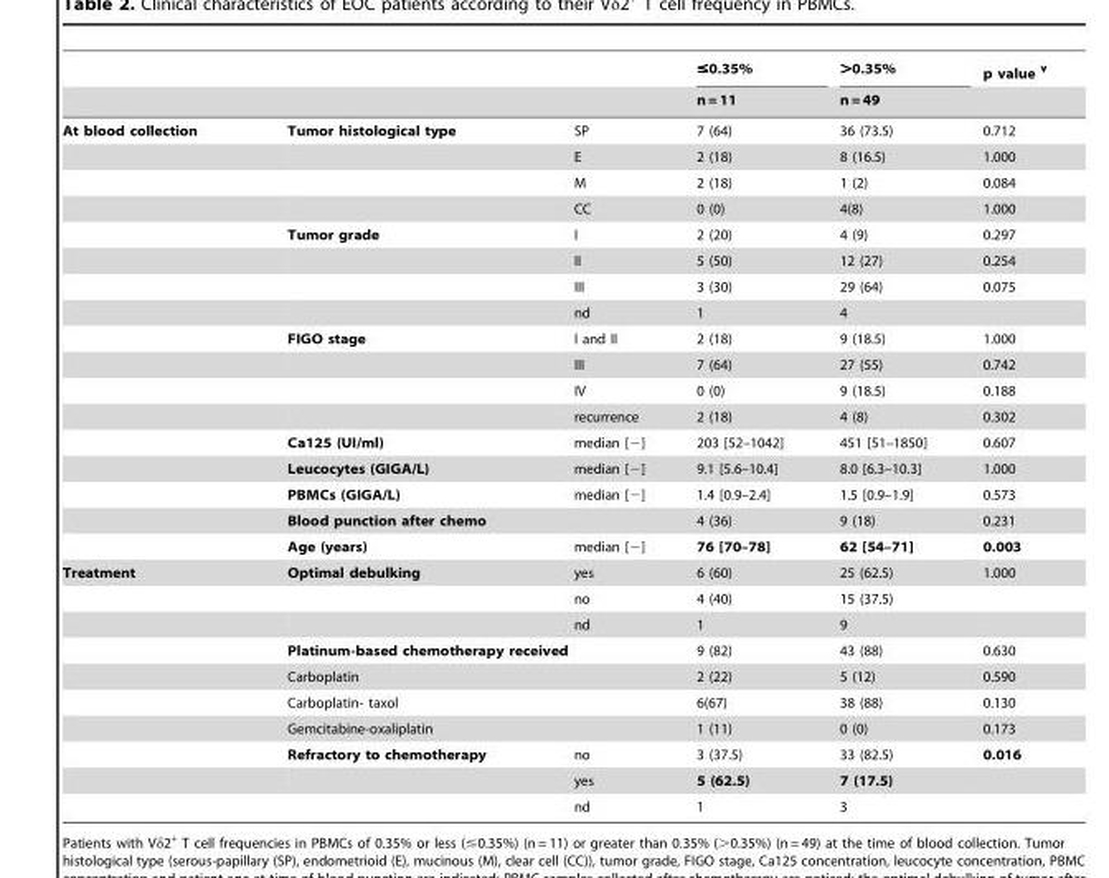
<table><thead><tr><td rowspan="2"></td><td rowspan="2"></td><td rowspan="2"></td><td rowspan="2">≤0.35% n = 11</td><td rowspan="2">&gt;0.35% n = 49</td><td rowspan="2">p value <sup>¥</sup></td></tr><tr></tr></thead><tbody><tr><td rowspan="17">At blood collection</td><td>Tumor histological type</td><td>SP</td><td>7 (64)</td><td>36 (73.5)</td><td>0.712</td></tr><tr><td></td><td>E</td><td>2 (18)</td><td>8 (16.5)</td><td>1.000</td></tr><tr><td></td><td>M</td><td>2 (18)</td><td>1 (2)</td><td>0.084</td></tr><tr><td></td><td>CC</td><td>0 (0)</td><td>4(8)</td><td>1.000</td></tr><tr><td>Tumor grade</td><td>I</td><td>2 (20)</td><td>4 (9)</td><td>0.297</td></tr><tr><td></td><td>II</td><td>5 (50)</td><td>12 (27)</td><td>0.254</td></tr><tr><td></td><td>III</td><td>3 (30)</td><td>29 (64)</td><td>0.075</td></tr><tr><td></td><td>nd</td><td>1</td><td>4</td><td></td></tr><tr><td>FIGO stage</td><td>I and II</td><td>2 (18)</td><td>9 (18.5)</td><td>1.000</td></tr><tr><td></td><td>III</td><td>7 (64)</td><td>27 (55)</td><td>0.742</td></tr><tr><td></td><td>IV</td><td>0 (0)</td><td>9 (18.5)</td><td>0.188</td></tr><tr><td></td><td>recurrence</td><td>2 (18)</td><td>4 (8)</td><td>0.302</td></tr><tr><td>Ca125 (UI/ml)</td><td>median [−]</td><td>203 [52–1042]</td><td>451 [51–1850]</td><td>0.607</td></tr><tr><td>Leucocytes (GIGA/L)</td><td>median [−]</td><td>9.1 [5.6–10.4]</td><td>8.0 [6.3–10.3]</td><td>1.000</td></tr><tr><td>PBMCs (GIGA/L)</td><td>median [−]</td><td>1.4 [0.9–2.4]</td><td>1.5 [0.9–1.9]</td><td>0.573</td></tr><tr><td>Blood punction after chemo</td><td></td><td>4 (36)</td><td>9 (18)</td><td>0.231</td></tr><tr><td>Age (years)</td><td>median [−]</td><td>76 [70–78]</td><td>62 [54–71]</td><td>0.003</td></tr><tr><td rowspan="10">Treatment</td><td>Optimal debulking</td><td>yes</td><td>6 (60)</td><td>25 (62.5)</td><td>1.000</td></tr><tr><td></td><td>no</td><td>4 (40)</td><td>15 (37.5)</td><td></td></tr><tr><td></td><td>nd</td><td>1</td><td>9</td><td></td></tr><tr><td colspan="2">Platinum-based chemotherapy received</td><td>9 (82)</td><td>43 (88)</td><td>0.630</td></tr><tr><td>Carboplatin</td><td></td><td>2 (22)</td><td>5 (12)</td><td>0.590</td></tr><tr><td>Carboplatin- taxol</td><td></td><td>6(67)</td><td>38 (88)</td><td>0.130</td></tr><tr><td>Gemcitabine-oxaliplatin</td><td></td><td>1 (11)</td><td>0 (0)</td><td>0.173</td></tr><tr><td>Refractory to chemotherapy</td><td>no</td><td>3 (37.5)</td><td>33 (82.5)</td><td>0.016</td></tr><tr><td></td><td>yes</td><td>5 (62.5)</td><td>7 (17.5)</td><td></td></tr><tr><td></td><td>nd</td><td>1</td><td>3</td><td></td></tr></tbody></table>